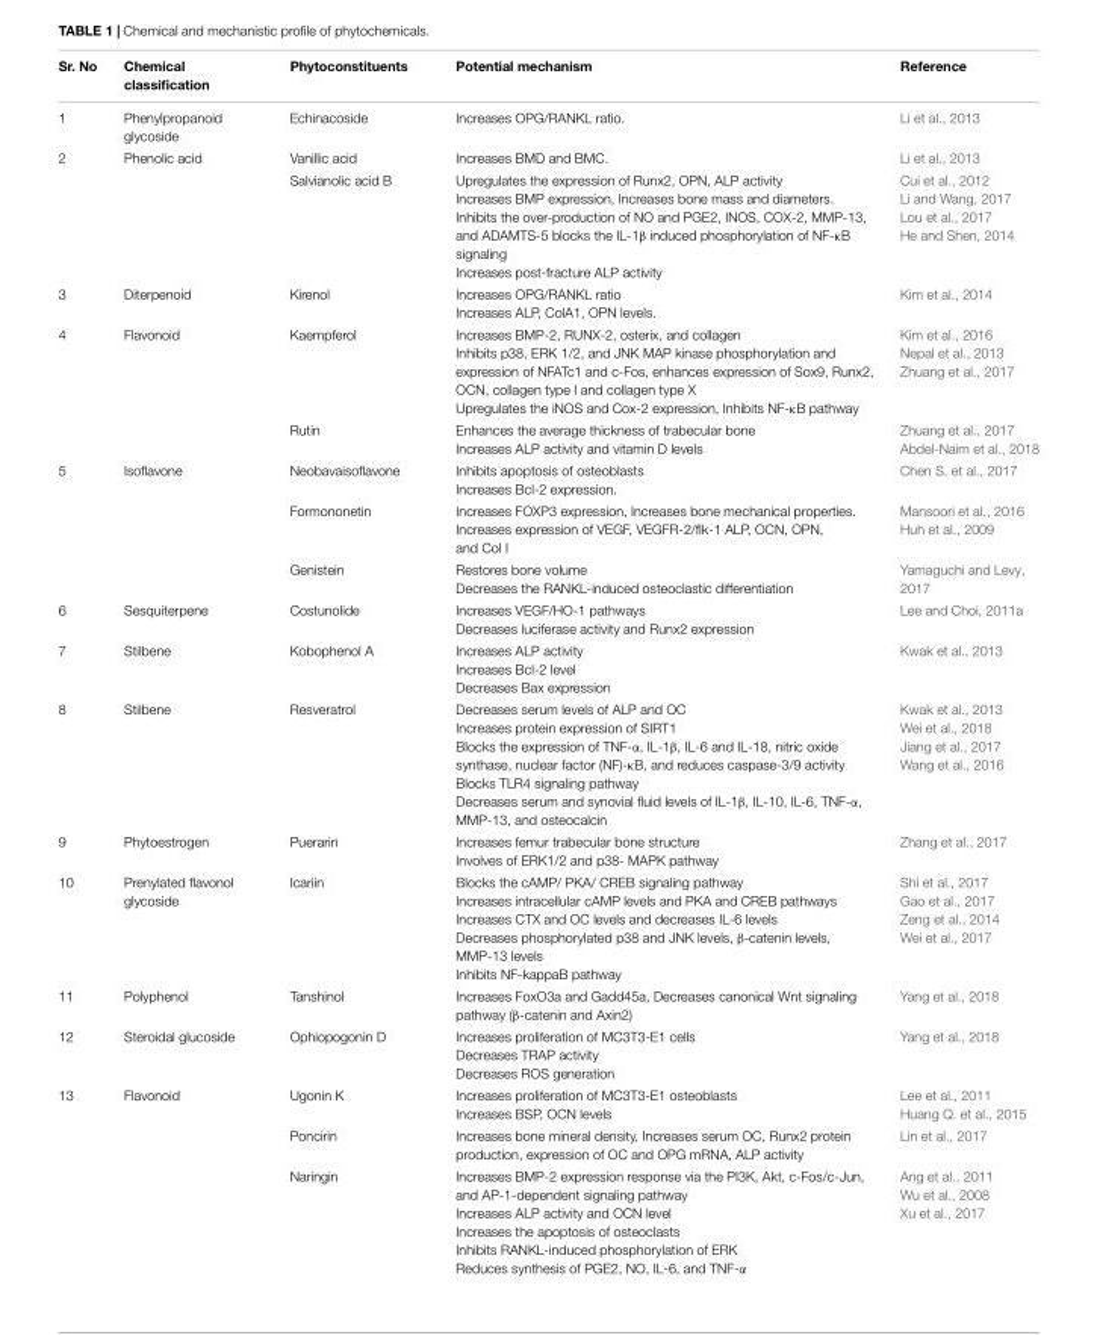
<table><thead><tr><td>Sr. No</td><td>Chemical classification</td><td>Phytoconstituents</td><td>Potential mechanism</td><td>Reference</td></tr></thead><tbody><tr><td>1</td><td>Phenylpropanoid glycoside</td><td>Echinacoside</td><td>Increases OPG/RANKL ratio.</td><td>Li et al., 2013</td></tr><tr><td rowspan="2">2</td><td>Phenolic acid</td><td>Vanillic acid</td><td>Increases BMD and BMC.</td><td>Li et al., 2013</td></tr><tr><td></td><td>Salvianolic acid B</td><td>Upregulates the expression of Runx2, OPN, ALP activity Increases BMP expression, Increases bone mass and diameters. Inhibits the over-production of NO and PGE2, INOS, COX-2, MMP-13, and ADAMTS-5 blocks the IL-1β induced phosphorylation of NF-κB signaling Increases post-fracture ALP activity</td><td>Cui et al., 2012 Li and Wang, 2017 Lou et al., 2017 He and Shen, 2014</td></tr><tr><td>3</td><td>Diterpenoid</td><td>Kirenol</td><td>Increases OPG/RANKL ratio Increases ALP, ColA1, OPN levels.</td><td>Kim et al., 2014</td></tr><tr><td rowspan="2">4</td><td>Flavonoid</td><td>Kaempferol</td><td>Increases BMP-2, RUNX-2, osterix, and collagen Inhibits p38, ERK 1/2, and JNK MAP kinase phosphorylation and expression of NFATc1 and c-Fos, enhances expression of Sox9, Runx2, OCN, collagen type I and collagen type X Upregulates the iNOS and Cox-2 expression, Inhibits NF-κB pathway</td><td>Kim et al., 2016 Nepal et al., 2013 Zhuang et al., 2017</td></tr><tr><td></td><td>Rutin</td><td>Enhances the average thickness of trabecular bone Increases ALP activity and vitamin D levels</td><td>Zhuang et al., 2017 Abdel-Naim et al., 2018</td></tr><tr><td rowspan="3">5</td><td>Isoflavone</td><td>Neobavaisoflavone</td><td>Inhibits apoptosis of osteoblasts Increases Bcl-2 expression.</td><td>Chen S. et al., 2017</td></tr><tr><td></td><td>Formononetin</td><td>Increases FOXP3 expression, Increases bone mechanical properties. Increases expression of VEGF, VEGFR-2/flk-1 ALP, OCN, OPN, and Col I</td><td>Mansoori et al., 2016 Huh et al., 2009</td></tr><tr><td></td><td>Genistein</td><td>Restores bone volume Decreases the RANKL-induced osteoclastic differentiation</td><td>Yamaguchi and Levy, 2017</td></tr><tr><td>6</td><td>Sesquiterpene</td><td>Costunolide</td><td>Increases VEGF/HO-1 pathways Decreases luciferase activity and Runx2 expression</td><td>Lee and Choi, 2011a</td></tr><tr><td>7</td><td>Stilbene</td><td>Kobophenol A</td><td>Increases ALP activity Increases Bcl-2 level Decreases Bax expression</td><td>Kwak et al., 2013</td></tr><tr><td>8</td><td>Stilbene</td><td>Resveratrol</td><td>Decreases serum levels of ALP and OC Increases protein expression of SIRT1 Blocks the expression of TNF-α, IL-1β, IL-6 and IL-18, nitric oxide synthase, nuclear factor (NF)-κB, and reduces caspase-3/9 activity Blocks TLR4 signaling pathway Decreases serum and synovial fluid levels of IL-1β, IL-10, IL-6, TNF-α, MMP-13, and osteocalcin</td><td>Kwak et al., 2013 Wei et al., 2018 Jiang et al., 2017 Wang et al., 2016</td></tr><tr><td>9</td><td>Phytoestrogen</td><td>Puerarin</td><td>Increases femur trabecular bone structure Involves of ERK1/2 and p38- MAPK pathway</td><td>Zhang et al., 2017</td></tr><tr><td>10</td><td>Prenylated flavonol glycoside</td><td>Icariin</td><td>Blocks the cAMP/ PKA/ CREB signaling pathway Increases intracellular cAMP levels and PKA and CREB pathways Increases CTX and OC levels and decreases IL-6 levels Decreases phosphorylated p38 and JNK levels, β-catenin levels, MMP-13 levels Inhibits NF-kappaB pathway</td><td>Shi et al., 2017 Gao et al., 2017 Zeng et al., 2014 Wei et al., 2017</td></tr><tr><td>11</td><td>Polyphenol</td><td>Tanshinol</td><td>Increases FoxO3a and Gadd45a, Decreases canonical Wnt signaling pathway (β-catenin and Axin2)</td><td>Yang et al., 2018</td></tr><tr><td>12</td><td>Steroidal glucoside</td><td>Ophiopogonin D</td><td>Increases proliferation of MC3T3-E1 cells Decreases TRAP activity Decreases ROS generation</td><td>Yang et al., 2018</td></tr><tr><td rowspan="3">13</td><td>Flavonoid</td><td>Ugonin K</td><td>Increases proliferation of MC3T3-E1 osteoblasts Increases BSP, OCN levels</td><td>Lee et al., 2011 Huang Q. et al., 2015</td></tr><tr><td></td><td>Poncirin</td><td>Increases bone mineral density, Increases serum OC, Runx2 protein production, expression of OC and OPG mRNA, ALP activity</td><td>Lin et al., 2017</td></tr><tr><td></td><td>Naringin</td><td>Increases BMP-2 expression response via the PI3K, Akt, c-Fos/c-Jun, and AP-1-dependent signaling pathway Increases ALP activity and OCN level Increases the apoptosis of osteoclasts Inhibits RANKL-induced phosphorylation of ERK Reduces synthesis of PGE2, NO, IL-6, and TNF-α</td><td>Ang et al., 2011 Wu et al., 2008 Xu et al., 2017</td></tr></tbody></table>